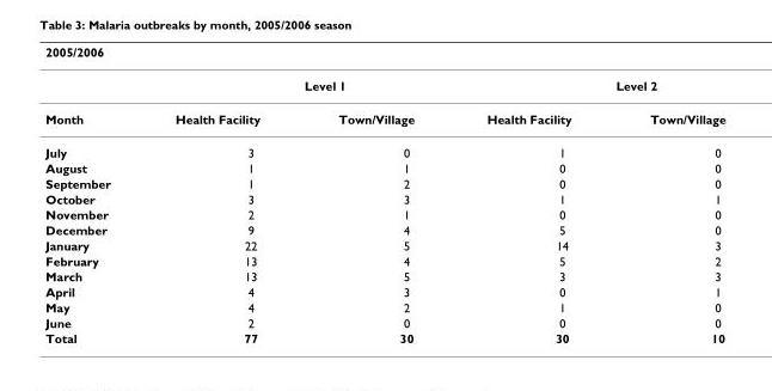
<table><thead><tr><td>2005/2006</td><td></td><td></td><td></td><td></td></tr></thead><tbody><tr><td></td><td colspan="2">Level 1</td><td colspan="2">Level 2</td></tr><tr><td>Month</td><td>Health Facility</td><td>Town/Village</td><td>Health Facility</td><td>Town/Village</td></tr><tr><td>July</td><td>3</td><td>0</td><td>1</td><td>0</td></tr><tr><td>August</td><td>1</td><td>1</td><td>0</td><td>0</td></tr><tr><td>September</td><td>1</td><td>2</td><td>0</td><td>0</td></tr><tr><td>October</td><td>3</td><td>3</td><td>1</td><td>1</td></tr><tr><td>November</td><td>2</td><td>1</td><td>0</td><td>0</td></tr><tr><td>December</td><td>9</td><td>4</td><td>5</td><td>0</td></tr><tr><td>January</td><td>22</td><td>5</td><td>14</td><td>3</td></tr><tr><td>February</td><td>13</td><td>4</td><td>5</td><td>2</td></tr><tr><td>March</td><td>13</td><td>5</td><td>3</td><td>3</td></tr><tr><td>April</td><td>4</td><td>3</td><td>0</td><td>1</td></tr><tr><td>May</td><td>4</td><td>2</td><td>1</td><td>0</td></tr><tr><td>June</td><td>2</td><td>0</td><td>0</td><td>0</td></tr><tr><td>Total</td><td>77</td><td>30</td><td>30</td><td>10</td></tr></tbody></table>